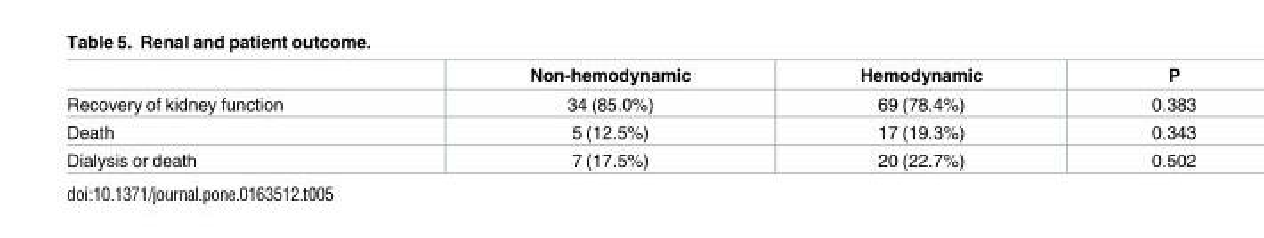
<table><thead><tr><td></td><td>Non-hemodynamic</td><td>Hemodynamic</td><td>P</td></tr></thead><tbody><tr><td>Recovery of kidney function</td><td>34 (85.0%)</td><td>69 (78.4%)</td><td>0.383</td></tr><tr><td>Death</td><td>5 (12.5%)</td><td>17 (19.3%)</td><td>0.343</td></tr><tr><td>Dialysis or death</td><td>7 (17.5%)</td><td>20 (22.7%)</td><td>0.502</td></tr></tbody></table>